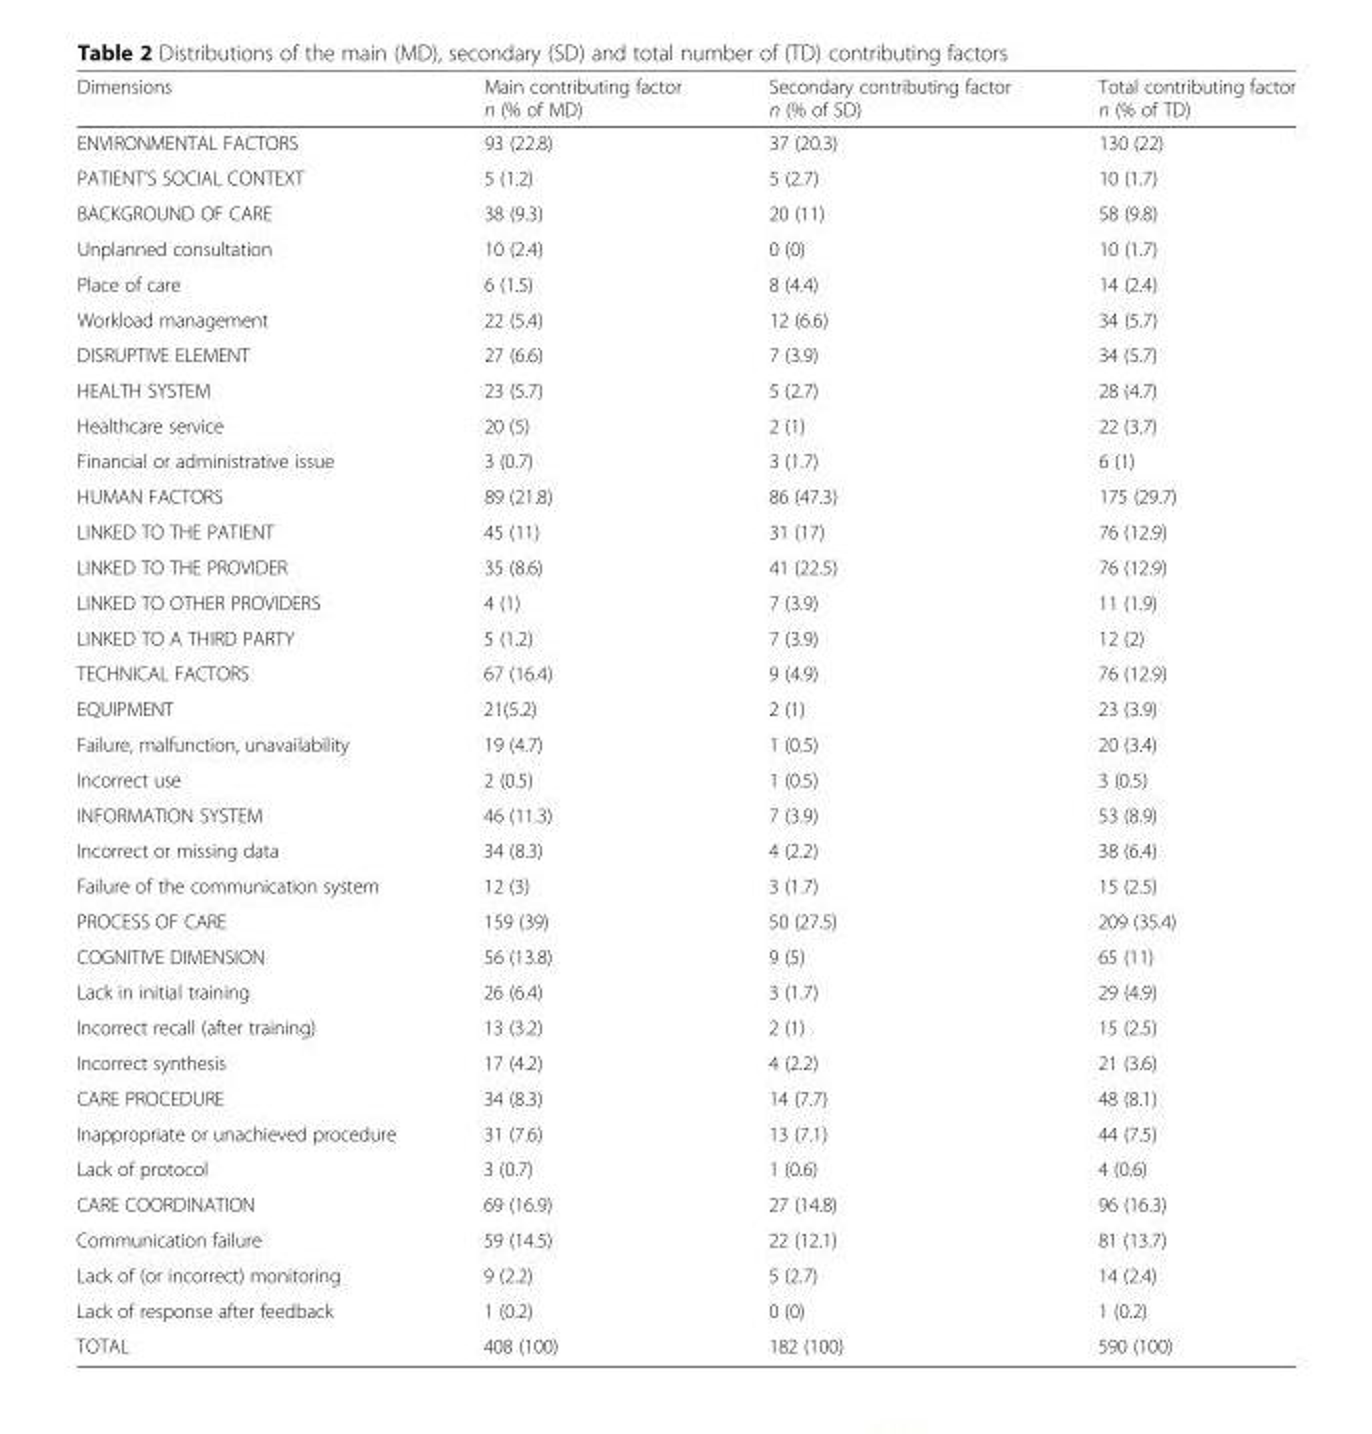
<table><thead><tr><td>Dimensions</td><td>Main contributing factor n (% of MD)</td><td>Secondary contributing factor n (% of SD)</td><td>Total contributing factor n (% of TD)</td></tr></thead><tbody><tr><td>ENVIRONMENTAL FACTORS</td><td>93 (22.8)</td><td>37 (20.3)</td><td>130 (22)</td></tr><tr><td>PATIENT’S SOCIAL CONTEXT</td><td>5 (1.2)</td><td>5 (2.7)</td><td>10 (1.7)</td></tr><tr><td>BACKGROUND OF CARE</td><td>38 (9.3)</td><td>20 (11)</td><td>58 (9.8)</td></tr><tr><td>Unplanned consultation</td><td>10 (2.4)</td><td>0 (0)</td><td>10 (1.7)</td></tr><tr><td>Place of care</td><td>6 (1.5)</td><td>8 (4.4)</td><td>14 (2.4)</td></tr><tr><td>Workload management</td><td>22 (5.4)</td><td>12 (6.6)</td><td>34 (5.7)</td></tr><tr><td>DISRUPTIVE ELEMENT</td><td>27 (6.6)</td><td>7 (3.9)</td><td>34 (5.7)</td></tr><tr><td>HEALTH SYSTEM</td><td>23 (5.7)</td><td>5 (2.7)</td><td>28 (4.7)</td></tr><tr><td>Healthcare service</td><td>20 (5)</td><td>2 (1)</td><td>22 (3.7)</td></tr><tr><td>Financial or administrative issue</td><td>3 (0.7)</td><td>3 (1.7)</td><td>6 (1)</td></tr><tr><td>HUMAN FACTORS</td><td>89 (21.8)</td><td>86 (47.3)</td><td>175 (29.7)</td></tr><tr><td>LINKED TO THE PATIENT</td><td>45 (11)</td><td>31 (17)</td><td>76 (12.9)</td></tr><tr><td>LINKED TO THE PROVIDER</td><td>35 (8.6)</td><td>41 (22.5)</td><td>76 (12.9)</td></tr><tr><td>LINKED TO OTHER PROVIDERS</td><td>4 (1)</td><td>7 (3.9)</td><td>11 (1.9)</td></tr><tr><td>LINKED TO A THIRD PARTY</td><td>5 (1.2)</td><td>7 (3.9)</td><td>12 (2)</td></tr><tr><td>TECHNICAL FACTORS</td><td>67 (16.4)</td><td>9 (4.9)</td><td>76 (12.9)</td></tr><tr><td>EQUIPMENT</td><td>21(5.2)</td><td>2 (1)</td><td>23 (3.9)</td></tr><tr><td>Failure, malfunction, unavailability</td><td>19 (4.7)</td><td>1 (0.5)</td><td>20 (3.4)</td></tr><tr><td>Incorrect use</td><td>2 (0.5)</td><td>1 (0.5)</td><td>3 (0.5)</td></tr><tr><td>INFORMATION SYSTEM</td><td>46 (11.3)</td><td>7 (3.9)</td><td>53 (8.9)</td></tr><tr><td>Incorrect or missing data</td><td>34 (8.3)</td><td>4 (2.2)</td><td>38 (6.4)</td></tr><tr><td>Failure of the communication system</td><td>12 (3)</td><td>3 (1.7)</td><td>15 (2.5)</td></tr><tr><td>PROCESS OF CARE</td><td>159 (39)</td><td>50 (27.5)</td><td>209 (35.4)</td></tr><tr><td>COGNITIVE DIMENSION</td><td>56 (13.8)</td><td>9 (5)</td><td>65 (11)</td></tr><tr><td>Lack in initial training</td><td>26 (6.4)</td><td>3 (1.7)</td><td>29 (4.9)</td></tr><tr><td>Incorrect recall (after training)</td><td>13 (3.2)</td><td>2 (1)</td><td>15 (2.5)</td></tr><tr><td>Incorrect synthesis</td><td>17 (4.2)</td><td>4 (2.2)</td><td>21 (3.6)</td></tr><tr><td>CARE PROCEDURE</td><td>34 (8.3)</td><td>14 (7.7)</td><td>48 (8.1)</td></tr><tr><td>Inappropriate or unachieved procedure</td><td>31 (7.6)</td><td>13 (7.1)</td><td>44 (7.5)</td></tr><tr><td>Lack of protocol</td><td>3 (0.7)</td><td>1 (0.6)</td><td>4 (0.6)</td></tr><tr><td>CARE COORDINATION</td><td>69 (16.9)</td><td>27 (14.8)</td><td>96 (16.3)</td></tr><tr><td>Communication failure</td><td>59 (14.5)</td><td>22 (12.1)</td><td>81 (13.7)</td></tr><tr><td>Lack of (or incorrect) monitoring</td><td>9 (2.2)</td><td>5 (2.7)</td><td>14 (2.4)</td></tr><tr><td>Lack of response after feedback</td><td>1 (0.2)</td><td>0 (0)</td><td>1 (0.2)</td></tr><tr><td>TOTAL</td><td>408 (100)</td><td>182 (100)</td><td>590 (100)</td></tr></tbody></table>